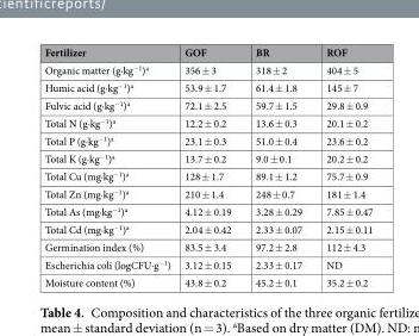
<table><thead><tr><td>Fertilizer</td><td>GOF</td><td>BR</td><td>ROF</td></tr></thead><tbody><tr><td>Organic matter (g·kg<sup>−1</sup>)<sup>a</sup></td><td>356 ± 3</td><td>318 ± 2</td><td>404 ± 5</td></tr><tr><td>Humic acid (g·kg<sup>−1</sup>)<sup>a</sup></td><td>53.9 ± 1.7</td><td>61.4 ± 1.8</td><td>145 ± 7</td></tr><tr><td>Fulvic acid (g·kg<sup>−1</sup>)<sup>a</sup></td><td>72.1 ± 2.5</td><td>59.7 ± 1.5</td><td>29.8 ± 0.9</td></tr><tr><td>Total N (g·kg<sup>−1</sup>)<sup>a</sup></td><td>12.2 ± 0.2</td><td>13.6 ± 0.3</td><td>20.1 ± 0.2</td></tr><tr><td>Total P (g·kg<sup>−1</sup>)<sup>a</sup></td><td>23.1 ± 0.3</td><td>51.0 ± 0.4</td><td>23.6 ± 0.2</td></tr><tr><td>Total K (g·kg<sup>−1</sup>)<sup>a</sup></td><td>13.7 ± 0.2</td><td>9.0 ± 0.1</td><td>20.2 ± 0.2</td></tr><tr><td>Total Cu (mg·kg<sup>−1</sup>)<sup>a</sup></td><td>128 ± 1.7</td><td>89.1 ± 1.2</td><td>75.7 ± 0.9</td></tr><tr><td>Total Zn (mg·kg<sup>−1</sup>)<sup>a</sup></td><td>210 ± 1.4</td><td>248 ± 0.7</td><td>181 ± 1.4</td></tr><tr><td>Total As (mg·kg<sup>−1</sup>)<sup>a</sup></td><td>4.12 ± 0.19</td><td>3.28 ± 0.29</td><td>7.85 ± 0.47</td></tr><tr><td>Total Cd (mg·kg<sup>−1</sup>)<sup>a</sup></td><td>2.04 ± 0.42</td><td>2.33 ± 0.07</td><td>2.15 ± 0.11</td></tr><tr><td>Germination index (%)</td><td>83.5 ± 3.4</td><td>97.2 ± 2.8</td><td>112 ± 4.3</td></tr><tr><td>Escherichia coli (logCFU·g<sup>−1</sup>)</td><td>3.12 ± 0.15</td><td>2.33 ± 0.17</td><td>ND</td></tr><tr><td>Moisture content (%)</td><td>43.8 ± 0.2</td><td>45.2 ± 0.1</td><td>35.2 ± 0.2</td></tr></tbody></table>